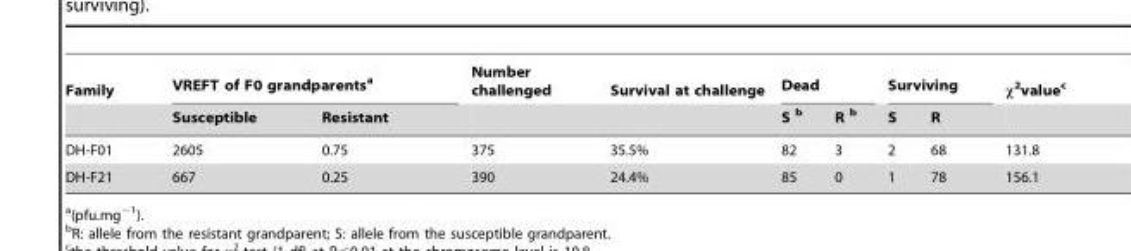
<table><thead><tr><td rowspan="2">Family</td><td colspan="2">VREFT of F0 grandparents<sup>a</sup></td><td rowspan="2">Number challenged</td><td rowspan="2">Survival at challenge</td><td colspan="2">Dead</td><td colspan="2">Surviving</td><td rowspan="2">x2valuec</td></tr><tr><td>Susceptible</td><td>Resistant</td><td>S b</td><td>R b</td><td>S</td><td>R</td></tr></thead><tbody><tr><td>DH-F01</td><td>2605</td><td>0.75</td><td>375</td><td>35.5%</td><td>82</td><td>3</td><td>2</td><td>68</td><td>131.8</td></tr><tr><td>DH-F21</td><td>667</td><td>0.25</td><td>390</td><td>24.4%</td><td>85</td><td>0</td><td>1</td><td>78</td><td>156.1</td></tr></tbody></table>